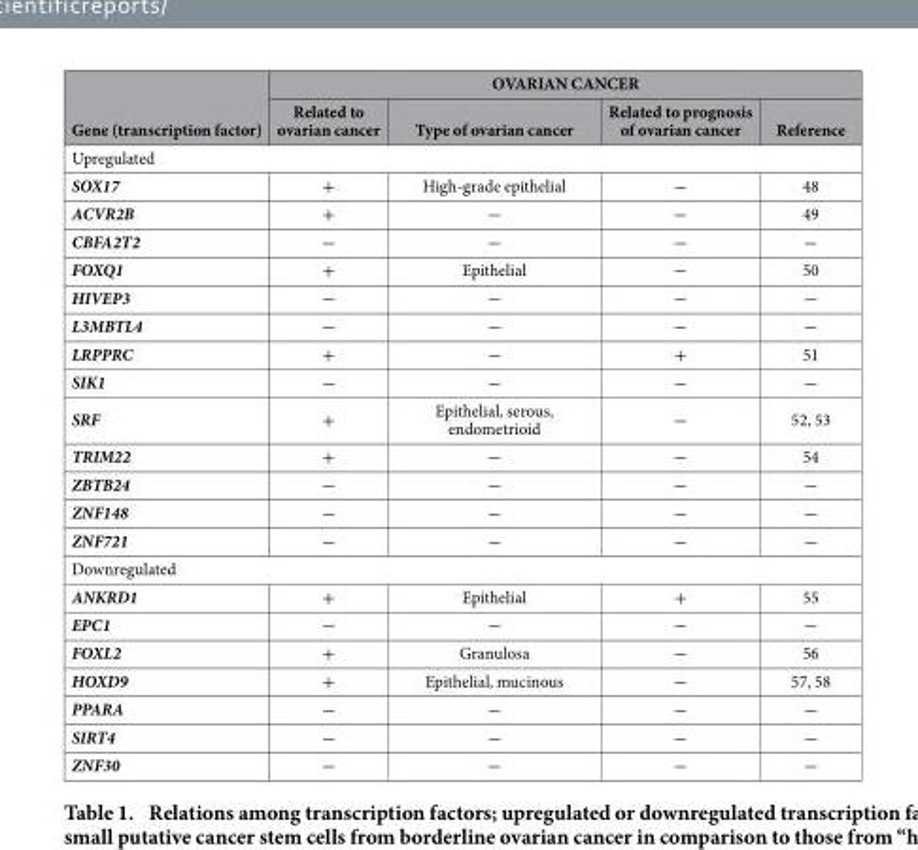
<table><thead><tr><td rowspan="2">Gene (transcription factor)</td><td colspan="4">OVARIAN CANCER</td></tr><tr><td>Related to ovarian cancer</td><td>Type of ovarian cancer</td><td>Related to prognosis of ovarian cancer</td><td>Reference</td></tr></thead><tbody><tr><td colspan="5">Upregulated</td></tr><tr><td>SOX17</td><td>+</td><td>High-grade epithelial</td><td>−</td><td>48</td></tr><tr><td>ACVR2B</td><td>+</td><td>−</td><td>−</td><td>49</td></tr><tr><td>CBFA2T2</td><td>−</td><td>−</td><td>−</td><td>−</td></tr><tr><td>FOXQ1</td><td>+</td><td>Epithelial</td><td>−</td><td>50</td></tr><tr><td>HIVEP3</td><td>−</td><td>−</td><td>−</td><td>−</td></tr><tr><td>L3MBTL4</td><td>−</td><td>−</td><td>−</td><td>−</td></tr><tr><td>LRPPRC</td><td>+</td><td>−</td><td>+</td><td>51</td></tr><tr><td>SIK1</td><td>−</td><td>−</td><td>−</td><td>−</td></tr><tr><td>SRF</td><td>+</td><td>Epithelial, serous, endometrioid</td><td>−</td><td>52, 53</td></tr><tr><td>TRIM22</td><td>+</td><td>−</td><td>−</td><td>54</td></tr><tr><td>ZBTB24</td><td>−</td><td>−</td><td>−</td><td>−</td></tr><tr><td>ZNF148</td><td>−</td><td>−</td><td>−</td><td>−</td></tr><tr><td>ZNF721</td><td>−</td><td>−</td><td>−</td><td>−</td></tr><tr><td colspan="5">Downregulated</td></tr><tr><td>ANKRD1</td><td>+</td><td>Epithelial</td><td>+</td><td>55</td></tr><tr><td>EPC1</td><td>−</td><td>−</td><td>−</td><td>−</td></tr><tr><td>FOXL2</td><td>+</td><td>Granulosa</td><td>−</td><td>56</td></tr><tr><td>HOXD9</td><td>+</td><td>Epithelial, mucinous</td><td>−</td><td>57, 58</td></tr><tr><td>PPARA</td><td>−</td><td>−</td><td>−</td><td>−</td></tr><tr><td>SIRT4</td><td>−</td><td>−</td><td>−</td><td>−</td></tr><tr><td>ZNF30</td><td>−</td><td>−</td><td>−</td><td>−</td></tr></tbody></table>